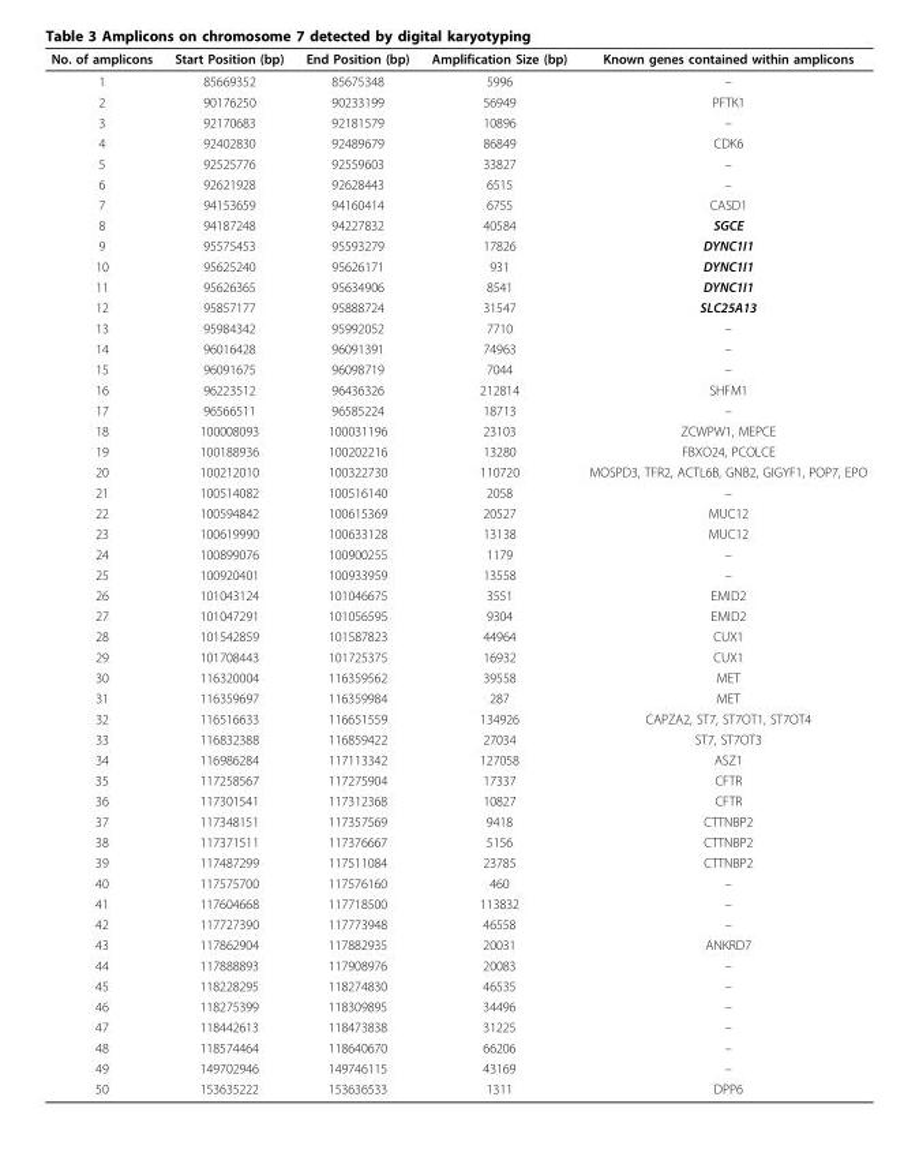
<table><thead><tr><td>No. of amplicons</td><td>Start Position (bp)</td><td>End Position (bp)</td><td>Amplification Size (bp)</td><td>Known genes contained within amplicons</td></tr></thead><tbody><tr><td>1</td><td>85669352</td><td>85675348</td><td>5996</td><td>–</td></tr><tr><td>2</td><td>90176250</td><td>90233199</td><td>56949</td><td>PFTK1</td></tr><tr><td>3</td><td>92170683</td><td>92181579</td><td>10896</td><td>–</td></tr><tr><td>4</td><td>92402830</td><td>92489679</td><td>86849</td><td>CDK6</td></tr><tr><td>5</td><td>92525776</td><td>92559603</td><td>33827</td><td>–</td></tr><tr><td>6</td><td>92621928</td><td>92628443</td><td>6515</td><td>–</td></tr><tr><td>7</td><td>94153659</td><td>94160414</td><td>6755</td><td>CASD1</td></tr><tr><td>8</td><td>94187248</td><td>94227832</td><td>40584</td><td>SGCE</td></tr><tr><td>9</td><td>95575453</td><td>95593279</td><td>17826</td><td>DYNC1I1</td></tr><tr><td>10</td><td>95625240</td><td>95626171</td><td>931</td><td>DYNC1I1</td></tr><tr><td>11</td><td>95626365</td><td>95634906</td><td>8541</td><td>DYNC1I1</td></tr><tr><td>12</td><td>95857177</td><td>95888724</td><td>31547</td><td>SLC25A13</td></tr><tr><td>13</td><td>95984342</td><td>95992052</td><td>7710</td><td>–</td></tr><tr><td>14</td><td>96016428</td><td>96091391</td><td>74963</td><td>–</td></tr><tr><td>15</td><td>96091675</td><td>96098719</td><td>7044</td><td>–</td></tr><tr><td>16</td><td>96223512</td><td>96436326</td><td>212814</td><td>SHFM1</td></tr><tr><td>17</td><td>96566511</td><td>96585224</td><td>18713</td><td>–</td></tr><tr><td>18</td><td>100008093</td><td>100031196</td><td>23103</td><td>ZCWPW1, MEPCE</td></tr><tr><td>19</td><td>100188936</td><td>100202216</td><td>13280</td><td>FBXO24, PCOLCE</td></tr><tr><td>20</td><td>100212010</td><td>100322730</td><td>110720</td><td>MOSPD3, TFR2, ACTL6B, GNB2, GIGYF1, POP7, EPO</td></tr><tr><td>21</td><td>100514082</td><td>100516140</td><td>2058</td><td>–</td></tr><tr><td>22</td><td>100594842</td><td>100615369</td><td>20527</td><td>MUC12</td></tr><tr><td>23</td><td>100619990</td><td>100633128</td><td>13138</td><td>MUC12</td></tr><tr><td>24</td><td>100899076</td><td>100900255</td><td>1179</td><td>–</td></tr><tr><td>25</td><td>100920401</td><td>100933959</td><td>13558</td><td>–</td></tr><tr><td>26</td><td>101043124</td><td>101046675</td><td>3551</td><td>EMID2</td></tr><tr><td>27</td><td>101047291</td><td>101056595</td><td>9304</td><td>EMID2</td></tr><tr><td>28</td><td>101542859</td><td>101587823</td><td>44964</td><td>CUX1</td></tr><tr><td>29</td><td>101708443</td><td>101725375</td><td>16932</td><td>CUX1</td></tr><tr><td>30</td><td>116320004</td><td>116359562</td><td>39558</td><td>MET</td></tr><tr><td>31</td><td>116359697</td><td>116359984</td><td>287</td><td>MET</td></tr><tr><td>32</td><td>116516633</td><td>116651559</td><td>134926</td><td>CAPZA2, ST7, ST7OT1, ST7OT4</td></tr><tr><td>33</td><td>116832388</td><td>116859422</td><td>27034</td><td>ST7, ST7OT3</td></tr><tr><td>34</td><td>116986284</td><td>117113342</td><td>127058</td><td>ASZ1</td></tr><tr><td>35</td><td>117258567</td><td>117275904</td><td>17337</td><td>CFTR</td></tr><tr><td>36</td><td>117301541</td><td>117312368</td><td>10827</td><td>CFTR</td></tr><tr><td>37</td><td>117348151</td><td>117357569</td><td>9418</td><td>CTTNBP2</td></tr><tr><td>38</td><td>117371511</td><td>117376667</td><td>5156</td><td>CTTNBP2</td></tr><tr><td>39</td><td>117487299</td><td>117511084</td><td>23785</td><td>CTTNBP2</td></tr><tr><td>40</td><td>117575700</td><td>117576160</td><td>460</td><td>–</td></tr><tr><td>41</td><td>117604668</td><td>117718500</td><td>113832</td><td>–</td></tr><tr><td>42</td><td>117727390</td><td>117773948</td><td>46558</td><td>–</td></tr><tr><td>43</td><td>117862904</td><td>117882935</td><td>20031</td><td>ANKRD7</td></tr><tr><td>44</td><td>117888893</td><td>117908976</td><td>20083</td><td>–</td></tr><tr><td>45</td><td>118228295</td><td>118274830</td><td>46535</td><td>–</td></tr><tr><td>46</td><td>118275399</td><td>118309895</td><td>34496</td><td>–</td></tr><tr><td>47</td><td>118442613</td><td>118473838</td><td>31225</td><td>–</td></tr><tr><td>48</td><td>118574464</td><td>118640670</td><td>66206</td><td>–</td></tr><tr><td>49</td><td>149702946</td><td>149746115</td><td>43169</td><td>–</td></tr><tr><td>50</td><td>153635222</td><td>153636533</td><td>1311</td><td>DPP6</td></tr></tbody></table>